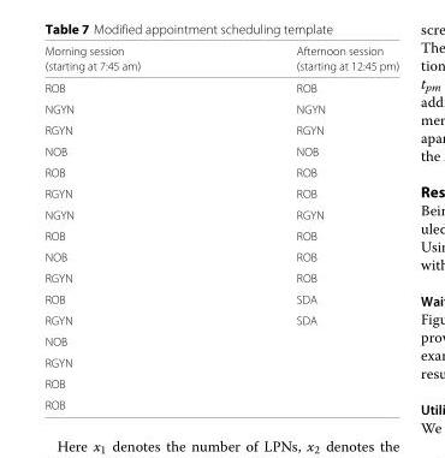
<table><thead><tr><td rowspan="2">Morning session (starting at 7:45 am)</td><td rowspan="2">Afternoon session (starting at 12:45 pm)</td></tr><tr></tr></thead><tbody><tr><td>ROB</td><td>ROB</td></tr><tr><td>NGYN</td><td>NGYN</td></tr><tr><td>RGYN</td><td>RGYN</td></tr><tr><td>NOB</td><td>NOB</td></tr><tr><td>ROB</td><td>ROB</td></tr><tr><td>RGYN</td><td>ROB</td></tr><tr><td>NGYN</td><td>RGYN</td></tr><tr><td>ROB</td><td>ROB</td></tr><tr><td>NOB</td><td>ROB</td></tr><tr><td>RGYN</td><td>ROB</td></tr><tr><td>ROB</td><td>SDA</td></tr><tr><td>RGYN</td><td>SDA</td></tr><tr><td colspan="2">NOB</td></tr><tr><td colspan="2">RGYN</td></tr><tr><td colspan="2">ROB</td></tr><tr><td>ROB</td><td></td></tr></tbody></table>